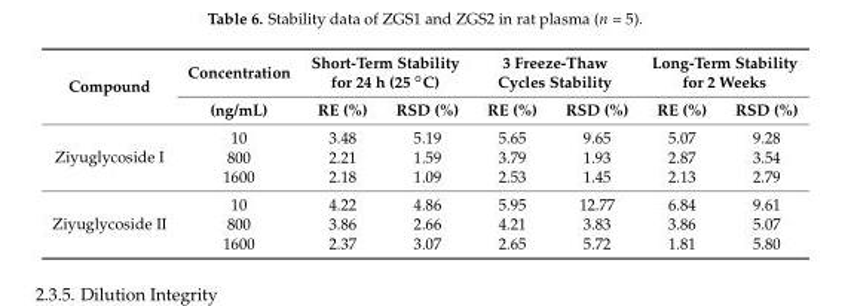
<table><thead><tr><td rowspan="2">Compound</td><td rowspan="2">Concentration (ng/mL)</td><td colspan="2">Short-Term Stability for 24 h (25 ◦C)</td><td colspan="2">3 Freeze-Thaw Cycles Stability</td><td colspan="2">Long-Term Stability for 2 Weeks</td></tr><tr><td>RE (%)</td><td>RSD (%)</td><td>RE (%)</td><td>RSD (%)</td><td>RE (%)</td><td>RSD (%)</td></tr></thead><tbody><tr><td rowspan="3">Ziyuglycoside I</td><td>10</td><td>3.48</td><td>5.19</td><td>5.65</td><td>9.65</td><td>5.07</td><td>9.28</td></tr><tr><td>800</td><td>2.21</td><td>1.59</td><td>3.79</td><td>1.93</td><td>2.87</td><td>3.54</td></tr><tr><td>1600</td><td>2.18</td><td>1.09</td><td>2.53</td><td>1.45</td><td>2.13</td><td>2.79</td></tr><tr><td rowspan="3">Ziyuglycoside II</td><td>10</td><td>4.22</td><td>4.86</td><td>5.95</td><td>12.77</td><td>6.84</td><td>9.61</td></tr><tr><td>800</td><td>3.86</td><td>2.66</td><td>4.21</td><td>3.83</td><td>3.86</td><td>5.07</td></tr><tr><td>1600</td><td>2.37</td><td>3.07</td><td>2.65</td><td>5.72</td><td>1.81</td><td>5.80</td></tr></tbody></table>